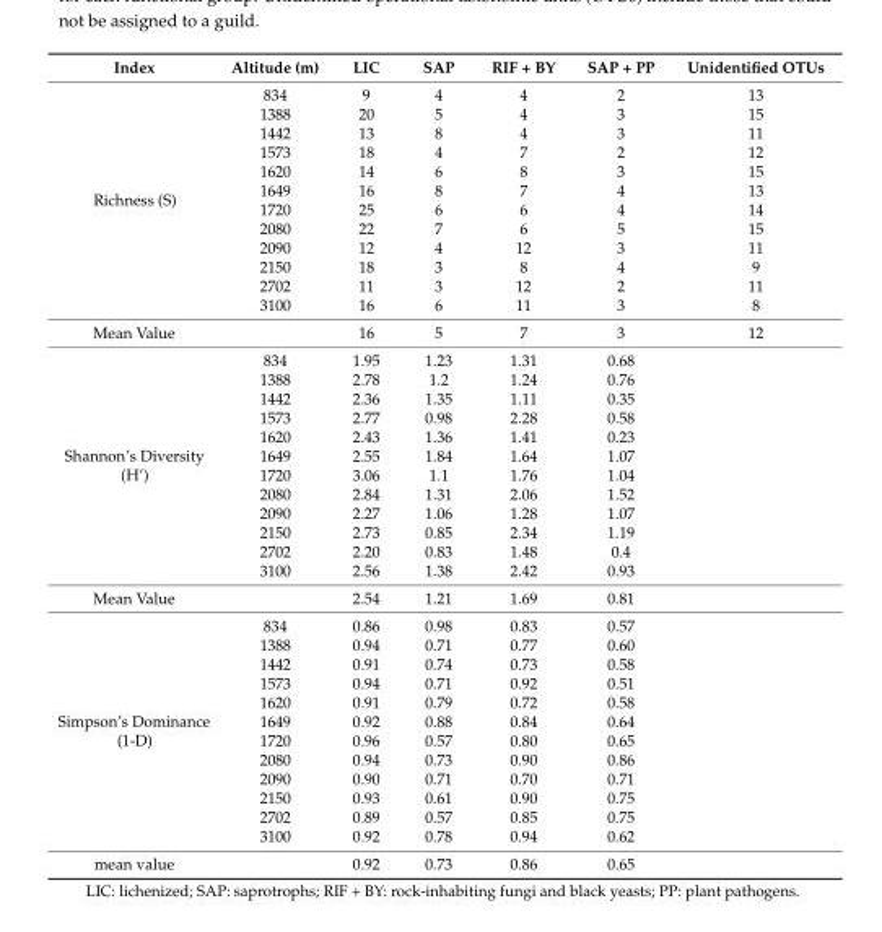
<table><thead><tr><td>Index</td><td>Altitude (m)</td><td>LIC</td><td>SAP</td><td>RIF + BY</td><td>SAP + PP</td><td>Unidentified OTUs</td></tr></thead><tbody><tr><td rowspan="12">Richness (S)</td><td>834</td><td>9</td><td>4</td><td>4</td><td>2</td><td>13</td></tr><tr><td>1388</td><td>20</td><td>5</td><td>4</td><td>3</td><td>15</td></tr><tr><td>1442</td><td>13</td><td>8</td><td>4</td><td>3</td><td>11</td></tr><tr><td>1573</td><td>18</td><td>4</td><td>7</td><td>2</td><td>12</td></tr><tr><td>1620</td><td>14</td><td>6</td><td>8</td><td>3</td><td>15</td></tr><tr><td>1649</td><td>16</td><td>8</td><td>7</td><td>4</td><td>13</td></tr><tr><td>1720</td><td>25</td><td>6</td><td>6</td><td>4</td><td>14</td></tr><tr><td>2080</td><td>22</td><td>7</td><td>6</td><td>5</td><td>15</td></tr><tr><td>2090</td><td>12</td><td>4</td><td>12</td><td>3</td><td>11</td></tr><tr><td>2150</td><td>18</td><td>3</td><td>8</td><td>4</td><td>9</td></tr><tr><td>2702</td><td>11</td><td>3</td><td>12</td><td>2</td><td>11</td></tr><tr><td>3100</td><td>16</td><td>6</td><td>11</td><td>3</td><td>8</td></tr><tr><td>Mean Value</td><td></td><td>16</td><td>5</td><td>7</td><td>3</td><td>12</td></tr><tr><td rowspan="12">Shannon’s Diversity (H’)</td><td>834</td><td>1.95</td><td>1.23</td><td>1.31</td><td>0.68</td><td></td></tr><tr><td>1388</td><td>2.78</td><td>1.2</td><td>1.24</td><td>0.76</td><td></td></tr><tr><td>1442</td><td>2.36</td><td>1.35</td><td>1.11</td><td>0.35</td><td></td></tr><tr><td>1573</td><td>2.77</td><td>0.98</td><td>2.28</td><td>0.58</td><td></td></tr><tr><td>1620</td><td>2.43</td><td>1.36</td><td>1.41</td><td>0.23</td><td></td></tr><tr><td>1649</td><td>2.55</td><td>1.84</td><td>1.64</td><td>1.07</td><td></td></tr><tr><td>1720</td><td>3.06</td><td>1.1</td><td>1.76</td><td>1.04</td><td></td></tr><tr><td>2080</td><td>2.84</td><td>1.31</td><td>2.06</td><td>1.52</td><td></td></tr><tr><td>2090</td><td>2.27</td><td>1.06</td><td>1.28</td><td>1.07</td><td></td></tr><tr><td>2150</td><td>2.73</td><td>0.85</td><td>2.34</td><td>1.19</td><td></td></tr><tr><td>2702</td><td>2.20</td><td>0.83</td><td>1.48</td><td>0.4</td><td></td></tr><tr><td>3100</td><td>2.56</td><td>1.38</td><td>2.42</td><td>0.93</td><td></td></tr><tr><td>Mean Value</td><td></td><td>2.54</td><td>1.21</td><td>1.69</td><td>0.81</td><td></td></tr><tr><td rowspan="12">Simpson’s Dominance (1-D)</td><td>834</td><td>0.86</td><td>0.98</td><td>0.83</td><td>0.57</td><td></td></tr><tr><td>1388</td><td>0.94</td><td>0.71</td><td>0.77</td><td>0.60</td><td></td></tr><tr><td>1442</td><td>0.91</td><td>0.74</td><td>0.73</td><td>0.58</td><td></td></tr><tr><td>1573</td><td>0.94</td><td>0.71</td><td>0.92</td><td>0.51</td><td></td></tr><tr><td>1620</td><td>0.91</td><td>0.79</td><td>0.72</td><td>0.58</td><td></td></tr><tr><td>1649</td><td>0.92</td><td>0.88</td><td>0.84</td><td>0.64</td><td></td></tr><tr><td>1720</td><td>0.96</td><td>0.57</td><td>0.80</td><td>0.65</td><td></td></tr><tr><td>2080</td><td>0.94</td><td>0.73</td><td>0.90</td><td>0.86</td><td></td></tr><tr><td>2090</td><td>0.90</td><td>0.71</td><td>0.70</td><td>0.71</td><td></td></tr><tr><td>2150</td><td>0.93</td><td>0.61</td><td>0.90</td><td>0.75</td><td></td></tr><tr><td>2702</td><td>0.89</td><td>0.57</td><td>0.85</td><td>0.75</td><td></td></tr><tr><td>3100</td><td>0.92</td><td>0.78</td><td>0.94</td><td>0.62</td><td></td></tr><tr><td>mean value</td><td></td><td>0.92</td><td>0.73</td><td>0.86</td><td>0.65</td><td></td></tr></tbody></table>